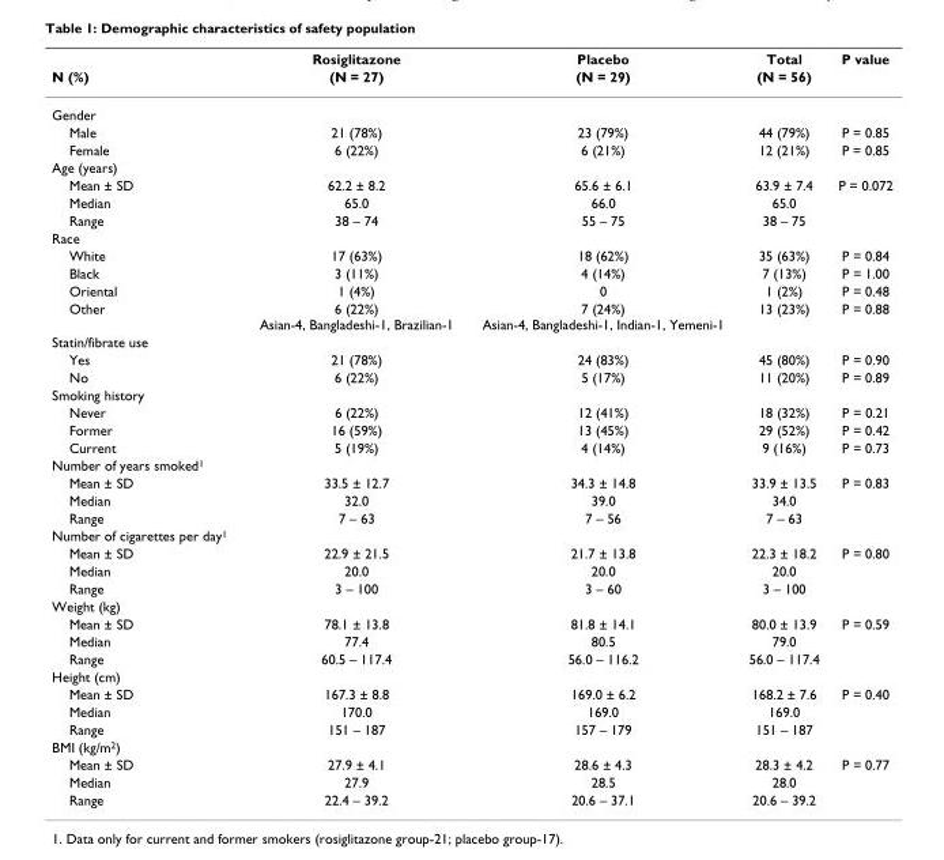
<table><thead><tr><td rowspan="2">N (%)</td><td rowspan="2">Rosiglitazone (N = 27)</td><td rowspan="2">Placebo (N = 29)</td><td rowspan="2">Total (N = 56)</td><td rowspan="2">P value</td></tr><tr></tr></thead><tbody><tr><td colspan="5">Gender</td></tr><tr><td>Male</td><td>21 (78%)</td><td>23 (79%)</td><td>44 (79%)</td><td>P = 0.85</td></tr><tr><td>Female</td><td>6 (22%)</td><td>6 (21%)</td><td>12 (21%)</td><td>P = 0.85</td></tr><tr><td colspan="5">Age (years)</td></tr><tr><td>Mean ± SD</td><td>62.2 ± 8.2</td><td>65.6 ± 6.1</td><td>63.9 ± 7.4</td><td>P = 0.072</td></tr><tr><td>Median</td><td>65.0</td><td>66.0</td><td>65.0</td><td></td></tr><tr><td>Range</td><td>38 – 74</td><td>55 – 75</td><td>38 – 75</td><td></td></tr><tr><td colspan="5">Race</td></tr><tr><td>White</td><td>17 (63%)</td><td>18 (62%)</td><td>35 (63%)</td><td>P = 0.84</td></tr><tr><td>Black</td><td>3 (11%)</td><td>4 (14%)</td><td>7 (13%)</td><td>P = 1.00</td></tr><tr><td>Oriental</td><td>1 (4%)</td><td>0</td><td>1 (2%)</td><td>P = 0.48</td></tr><tr><td>Other</td><td>6 (22%) Asian-4, Bangladeshi-1, Brazilian-1</td><td>7 (24%) Asian-4, Bangladeshi-1, Indian-1, Yemeni-1</td><td>13 (23%)</td><td>P = 0.88</td></tr><tr><td colspan="5">Statin/fibrate use</td></tr><tr><td>Yes</td><td>21 (78%)</td><td>24 (83%)</td><td>45 (80%)</td><td>P = 0.90</td></tr><tr><td>No</td><td>6 (22%)</td><td>5 (17%)</td><td>11 (20%)</td><td>P = 0.89</td></tr><tr><td colspan="5">Smoking history</td></tr><tr><td>Never</td><td>6 (22%)</td><td>12 (41%)</td><td>18 (32%)</td><td>P = 0.21</td></tr><tr><td>Former</td><td>16 (59%)</td><td>13 (45%)</td><td>29 (52%)</td><td>P = 0.42</td></tr><tr><td>Current</td><td>5 (19%)</td><td>4 (14%)</td><td>9 (16%)</td><td>P = 0.73</td></tr><tr><td colspan="5">Number of years smoked<sup>1</sup></td></tr><tr><td>Mean ± SD</td><td>33.5 ± 12.7</td><td>34.3 ± 14.8</td><td>33.9 ± 13.5</td><td>P = 0.83</td></tr><tr><td>Median</td><td>32.0</td><td>39.0</td><td>34.0</td><td></td></tr><tr><td>Range</td><td>7 – 63</td><td>7 – 56</td><td>7 – 63</td><td></td></tr><tr><td colspan="5">Number of cigarettes per day<sup>1</sup></td></tr><tr><td>Mean ± SD</td><td>22.9 ± 21.5</td><td>21.7 ± 13.8</td><td>22.3 ± 18.2</td><td>P = 0.80</td></tr><tr><td>Median</td><td>20.0</td><td>20.0</td><td>20.0</td><td></td></tr><tr><td>Range</td><td>3 – 100</td><td>3 – 60</td><td>3 – 100</td><td></td></tr><tr><td colspan="5">Weight (kg)</td></tr><tr><td>Mean ± SD</td><td>78.1 ± 13.8</td><td>81.8 ± 14.1</td><td>80.0 ± 13.9</td><td>P = 0.59</td></tr><tr><td>Median</td><td>77.4</td><td>80.5</td><td>79.0</td><td></td></tr><tr><td>Range</td><td>60.5 – 117.4</td><td>56.0 – 116.2</td><td>56.0 – 117.4</td><td></td></tr><tr><td colspan="5">Height (cm)</td></tr><tr><td>Mean ± SD</td><td>167.3 ± 8.8</td><td>169.0 ± 6.2</td><td>168.2 ± 7.6</td><td>P = 0.40</td></tr><tr><td>Median</td><td>170.0</td><td>169.0</td><td>169.0</td><td></td></tr><tr><td>Range</td><td>151 – 187</td><td>157 – 179</td><td>151 – 187</td><td></td></tr><tr><td colspan="5">BMI (kg/m<sup>2</sup>)</td></tr><tr><td>Mean ± SD</td><td>27.9 ± 4.1</td><td>28.6 ± 4.3</td><td>28.3 ± 4.2</td><td>P = 0.77</td></tr><tr><td>Median</td><td>27.9</td><td>28.5</td><td>28.0</td><td></td></tr><tr><td>Range</td><td>22.4 – 39.2</td><td>20.6 – 37.1</td><td>20.6 – 39.2</td><td></td></tr></tbody></table>